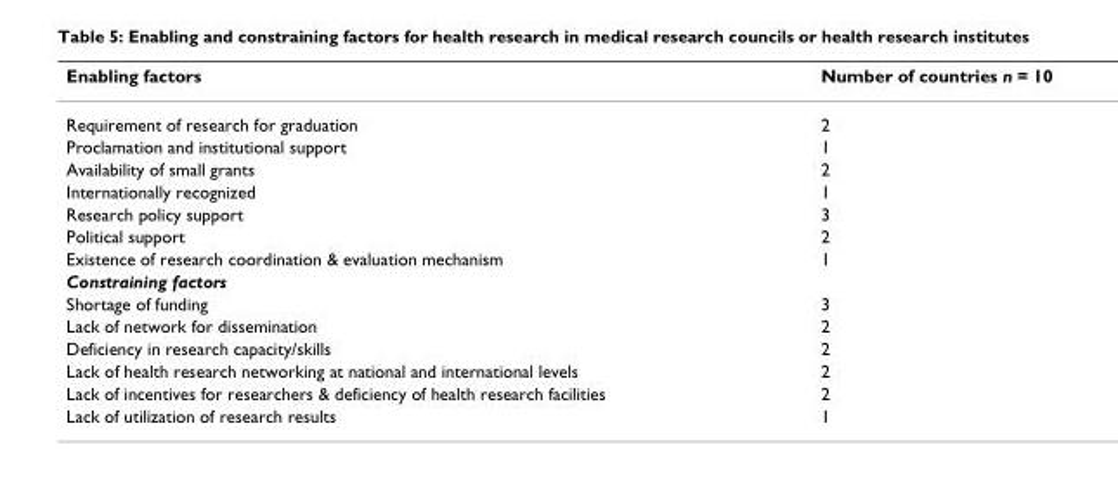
<table><thead><tr><td>Enabling factors</td><td>Number of countries n = 10</td></tr></thead><tbody><tr><td>Requirement of research for graduation</td><td>2</td></tr><tr><td>Proclamation and institutional support</td><td>1</td></tr><tr><td>Availability of small grants</td><td>2</td></tr><tr><td>Internationally recognized</td><td>1</td></tr><tr><td>Research policy support</td><td>3</td></tr><tr><td>Political support</td><td>2</td></tr><tr><td>Existence of research coordination &amp; evaluation mechanism</td><td>1</td></tr><tr><td colspan="2">Constraining factors</td></tr><tr><td>Shortage of funding</td><td>3</td></tr><tr><td>Lack of network for dissemination</td><td>2</td></tr><tr><td>Deficiency in research capacity/skills</td><td>2</td></tr><tr><td>Lack of health research networking at national and international levels</td><td>2</td></tr><tr><td>Lack of incentives for researchers &amp; deficiency of health research facilities</td><td>2</td></tr><tr><td>Lack of utilization of research results</td><td>1</td></tr></tbody></table>